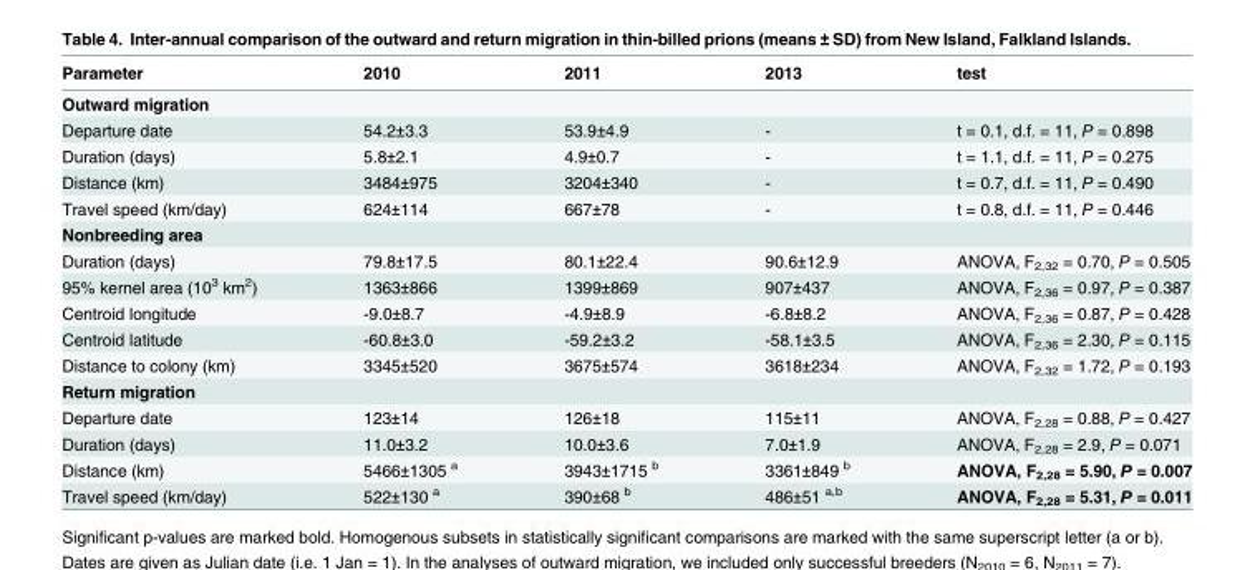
<table><thead><tr><td>Parameter</td><td>2010</td><td>2011</td><td>2013</td><td>test</td></tr></thead><tbody><tr><td colspan="5">Outward migration</td></tr><tr><td>Departure date</td><td>54.2±3.3</td><td>53.9±4.9</td><td>-</td><td>t = 0.1, d.f. = 11, P = 0.898</td></tr><tr><td>Duration (days)</td><td>5.8±2.1</td><td>4.9±0.7</td><td>-</td><td>t = 1.1, d.f. = 11, P = 0.275</td></tr><tr><td>Distance (km)</td><td>3484±975</td><td>3204±340</td><td>-</td><td>t = 0.7, d.f. = 11, P = 0.490</td></tr><tr><td>Travel speed (km/day)</td><td>624±114</td><td>667±78</td><td>-</td><td>t = 0.8, d.f. = 11, P = 0.446</td></tr><tr><td colspan="5">Nonbreeding area</td></tr><tr><td>Duration (days)</td><td>79.8±17.5</td><td>80.1±22.4</td><td>90.6±12.9</td><td>ANOVA, F<sub>2,32</sub> = 0.70, P = 0.505</td></tr><tr><td>95% kernel area (10<sup>3</sup> km<sup>2</sup>)</td><td>1363±866</td><td>1399±869</td><td>907±437</td><td>ANOVA, F<sub>2,36</sub> = 0.97, P = 0.387</td></tr><tr><td>Centroid longitude</td><td>-9.0±8.7</td><td>-4.9±8.9</td><td>-6.8±8.2</td><td>ANOVA, F<sub>2,36</sub> = 0.87, P = 0.428</td></tr><tr><td>Centroid latitude</td><td>-60.8±3.0</td><td>-59.2±3.2</td><td>-58.1±3.5</td><td>ANOVA, F<sub>2,36</sub> = 2.30, P = 0.115</td></tr><tr><td>Distance to colony (km)</td><td>3345±520</td><td>3675±574</td><td>3618±234</td><td>ANOVA, F<sub>2,32</sub> = 1.72, P = 0.193</td></tr><tr><td colspan="5">Return migration</td></tr><tr><td>Departure date</td><td>123±14</td><td>126±18</td><td>115±11</td><td>ANOVA, F<sub>2,28</sub> = 0.88, P = 0.427</td></tr><tr><td>Duration (days)</td><td>11.0±3.2</td><td>10.0±3.6</td><td>7.0±1.9</td><td>ANOVA, F<sub>2,28</sub> = 2.9, P = 0.071</td></tr><tr><td>Distance (km)</td><td>5466±1305 <sup>a</sup></td><td>3943±1715 <sup>b</sup></td><td>3361±849 <sup>b</sup></td><td>ANOVA, F<sub>2,28</sub> = 5.90, P = 0.007</td></tr><tr><td>Travel speed (km/day)</td><td>522±130 <sup>a</sup></td><td>390±68 <sup>b</sup></td><td>486±51 <sup>a,b</sup></td><td>ANOVA, F<sub>2,28</sub> = 5.31, P = 0.011</td></tr></tbody></table>